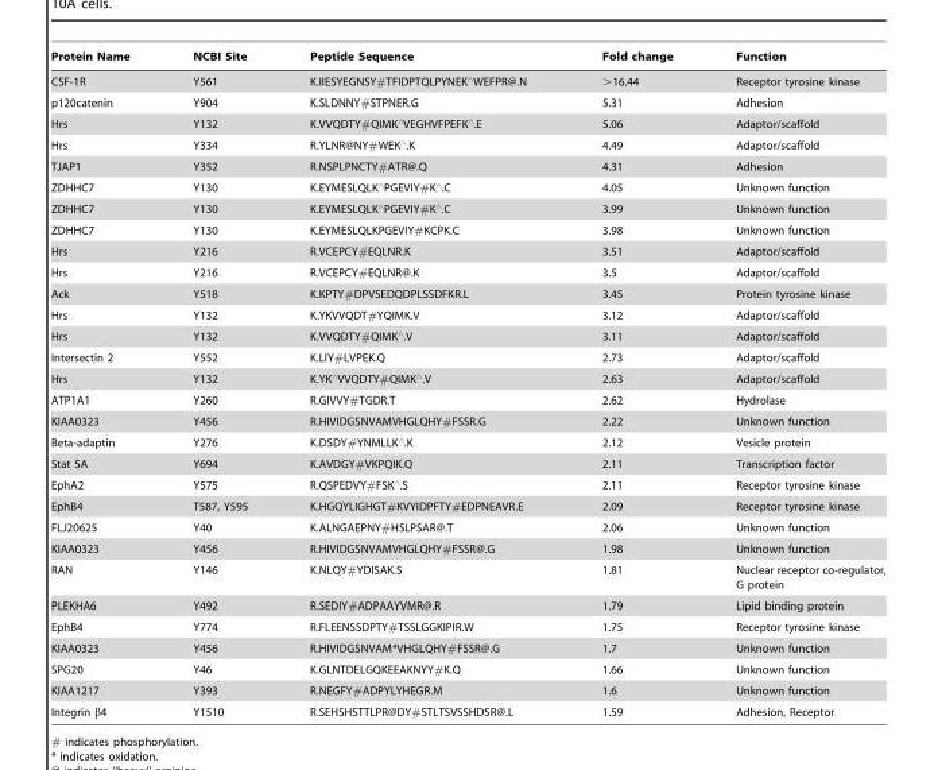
<table><thead><tr><td>Protein Name</td><td>NCBI Site</td><td>Peptide Sequence</td><td>Fold change</td><td>Function</td></tr></thead><tbody><tr><td>CSF-1R</td><td>Y561</td><td>K.IIESYEGNSY#TFIDPTQLPYNEK‘WEFPR@.N</td><td>&gt;16.44</td><td>Receptor tyrosine kinase</td></tr><tr><td>p120catenin</td><td>Y904</td><td>K.SLDNNY#STPNER.G</td><td>5.31</td><td>Adhesion</td></tr><tr><td>Hrs</td><td>Y132</td><td>K.VVQDTY#QIMK‘VEGHVFPEFK‘.E</td><td>5.06</td><td>Adaptor/scaffold</td></tr><tr><td>Hrs</td><td>Y334</td><td>R.YLNR@NY#WEK‘.K</td><td>4.49</td><td>Adaptor/scaffold</td></tr><tr><td>TJAP1</td><td>Y352</td><td>R.NSPLPNCTY#ATR@.Q</td><td>4.31</td><td>Adhesion</td></tr><tr><td>ZDHHC7</td><td>Y130</td><td>K.EYMESLQLK‘PGEVIY#K‘.C</td><td>4.05</td><td>Unknown function</td></tr><tr><td>ZDHHC7</td><td>Y130</td><td>K.EYMESLQLK‘PGEVIY#K‘.C</td><td>3.99</td><td>Unknown function</td></tr><tr><td>ZDHHC7</td><td>Y130</td><td>K.EYMESLQLKPGEVIY#KCPK.C</td><td>3.98</td><td>Unknown function</td></tr><tr><td>Hrs</td><td>Y216</td><td>R.VCEPCY#EQLNR.K</td><td>3.51</td><td>Adaptor/scaffold</td></tr><tr><td>Hrs</td><td>Y216</td><td>R.VCEPCY#EQLNR@.K</td><td>3.5</td><td>Adaptor/scaffold</td></tr><tr><td>Ack</td><td>Y518</td><td>K.KPTY#DPVSEDQDPLSSDFKR.L</td><td>3.45</td><td>Protein tyrosine kinase</td></tr><tr><td>Hrs</td><td>Y132</td><td>K.YKVVQDT#YQIMK.V</td><td>3.12</td><td>Adaptor/scaffold</td></tr><tr><td>Hrs</td><td>Y132</td><td>K.VVQDTY#QIMK‘.V</td><td>3.11</td><td>Adaptor/scaffold</td></tr><tr><td>Intersectin 2</td><td>Y552</td><td>K.LIY#LVPEK.Q</td><td>2.73</td><td>Adaptor/scaffold</td></tr><tr><td>Hrs</td><td>Y132</td><td>K.YK‘VVQDTY#QIMK‘.V</td><td>2.63</td><td>Adaptor/scaffold</td></tr><tr><td>ATP1A1</td><td>Y260</td><td>R.GIVVY#TGDR.T</td><td>2.62</td><td>Hydrolase</td></tr><tr><td>KIAA0323</td><td>Y456</td><td>R.HIVIDGSNVAMVHGLQHY#FSSR.G</td><td>2.22</td><td>Unknown function</td></tr><tr><td>Beta-adaptin</td><td>Y276</td><td>K.DSDY#YNMLLK‘.K</td><td>2.12</td><td>Vesicle protein</td></tr><tr><td>Stat 5A</td><td>Y694</td><td>K.AVDGY#VKPQIK.Q</td><td>2.11</td><td>Transcription factor</td></tr><tr><td>EphA2</td><td>Y575</td><td>R.QSPEDVY#FSK‘.S</td><td>2.11</td><td>Receptor tyrosine kinase</td></tr><tr><td>EphB4</td><td>T587, Y595</td><td>K.HGQYLIGHGT#KVYIDPFTY#EDPNEAVR.E</td><td>2.09</td><td>Receptor tyrosine kinase</td></tr><tr><td>FLJ20625</td><td>Y40</td><td>K.ALNGAEPNY#HSLPSAR@.T</td><td>2.06</td><td>Unknown function</td></tr><tr><td>KIAA0323</td><td>Y456</td><td>R.HIVIDGSNVAMVHGLQHY#FSSR@.G</td><td>1.98</td><td>Unknown function</td></tr><tr><td>RAN</td><td>Y146</td><td>K.NLQY#YDISAK.S</td><td>1.81</td><td>Nuclear receptor co-regulator, G protein</td></tr><tr><td>PLEKHA6</td><td>Y492</td><td>R.SEDIY#ADPAAYVMR@.R</td><td>1.79</td><td>Lipid binding protein</td></tr><tr><td>EphB4</td><td>Y774</td><td>R.FLEENSSDPTY#TSSLGGKIPIR.W</td><td>1.75</td><td>Receptor tyrosine kinase</td></tr><tr><td>KIAA0323</td><td>Y456</td><td>R.HIVIDGSNVAM*VHGLQHY#FSSR@.G</td><td>1.7</td><td>Unknown function</td></tr><tr><td>SPG20</td><td>Y46</td><td>K.GLNTDELGQKEEAKNYY#K.Q</td><td>1.66</td><td>Unknown function</td></tr><tr><td>KIAA1217</td><td>Y393</td><td>R.NEGFY#ADPYLYHEGR.M</td><td>1.6</td><td>Unknown function</td></tr><tr><td>Integrin β4</td><td>Y1510</td><td>R.SEHSHSTTLPR@DY#STLTSVSSHDSR@.L</td><td>1.59</td><td>Adhesion, Receptor</td></tr></tbody></table>